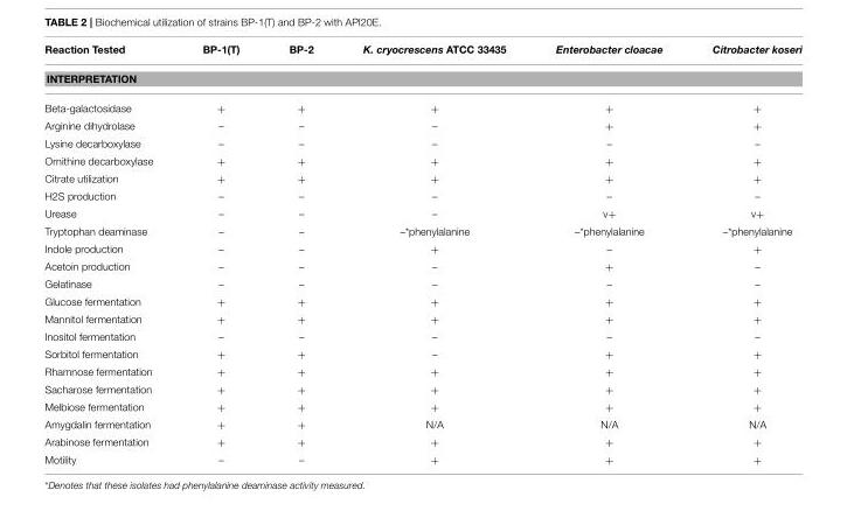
<table><thead><tr><td>Reaction Tested</td><td>BP-1(T)</td><td>BP-2</td><td>K. cryocrescens ATCC 33435</td><td>Enterobacter cloacae</td><td>Citrobacter koseri</td></tr></thead><tbody><tr><td colspan="6">INTERPRETATION</td></tr><tr><td>Beta-galactosidase</td><td>+</td><td>+</td><td>+</td><td>+</td><td>+</td></tr><tr><td>Arginine dihydrolase</td><td>–</td><td>–</td><td>–</td><td>+</td><td>+</td></tr><tr><td>Lysine decarboxylase</td><td>–</td><td>–</td><td>–</td><td>–</td><td>–</td></tr><tr><td>Ornithine decarboxylase</td><td>+</td><td>+</td><td>+</td><td>+</td><td>+</td></tr><tr><td>Citrate utilization</td><td>+</td><td>+</td><td>+</td><td>+</td><td>+</td></tr><tr><td>H2S production</td><td>–</td><td>–</td><td>–</td><td>–</td><td>–</td></tr><tr><td>Urease</td><td>–</td><td>–</td><td>–</td><td>v+</td><td>v+</td></tr><tr><td>Tryptophan deaminase</td><td>–</td><td>–</td><td>–*phenylalanine</td><td>–*phenylalanine</td><td>–*phenylalanine</td></tr><tr><td>Indole production</td><td>–</td><td>–</td><td>+</td><td>–</td><td>+</td></tr><tr><td>Acetoin production</td><td>–</td><td>–</td><td>–</td><td>+</td><td>–</td></tr><tr><td>Gelatinase</td><td>–</td><td>–</td><td>–</td><td>–</td><td>–</td></tr><tr><td>Glucose fermentation</td><td>+</td><td>+</td><td>+</td><td>+</td><td>+</td></tr><tr><td>Mannitol fermentation</td><td>+</td><td>+</td><td>+</td><td>+</td><td>+</td></tr><tr><td>Inositol fermentation</td><td>–</td><td>–</td><td>–</td><td>–</td><td>–</td></tr><tr><td>Sorbitol fermentation</td><td>+</td><td>+</td><td>–</td><td>+</td><td>+</td></tr><tr><td>Rhamnose fermentation</td><td>+</td><td>+</td><td>+</td><td>+</td><td>+</td></tr><tr><td>Sacharose fermentation</td><td>+</td><td>+</td><td>+</td><td>+</td><td>+</td></tr><tr><td>Melbiose fermentation</td><td>+</td><td>+</td><td>+</td><td>+</td><td>+</td></tr><tr><td>Amygdalin fermentation</td><td>+</td><td>+</td><td>N/A</td><td>N/A</td><td>N/A</td></tr><tr><td>Arabinose fermentation</td><td>+</td><td>+</td><td>+</td><td>+</td><td>+</td></tr><tr><td>Motility</td><td>–</td><td>–</td><td>+</td><td>+</td><td>+</td></tr></tbody></table>